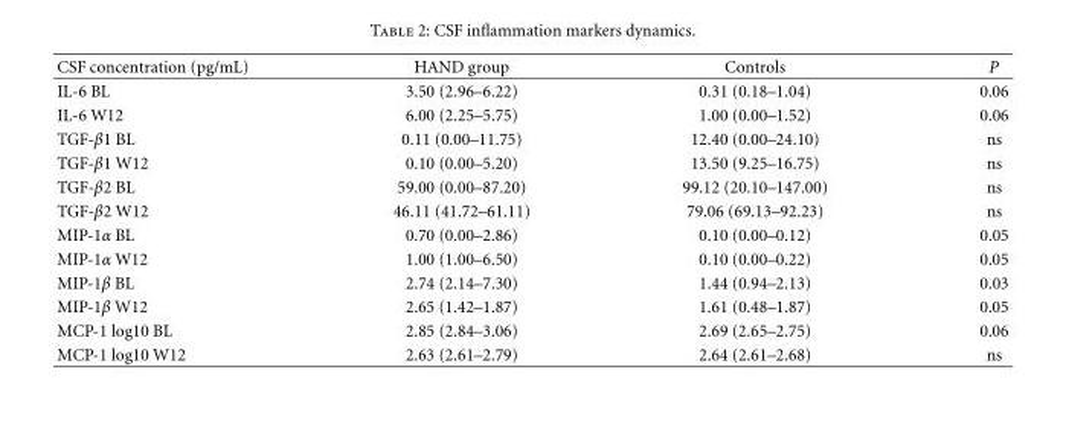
<table><thead><tr><td>CSF concentration (pg/mL)</td><td>HAND group</td><td>Controls</td><td>P</td></tr></thead><tbody><tr><td>IL-6 BL</td><td>3.50 (2.96–6.22)</td><td>0.31 (0.18–1.04)</td><td>0.06</td></tr><tr><td>IL-6 W12</td><td>6.00 (2.25–5.75)</td><td>1.00 (0.00–1.52)</td><td>0.06</td></tr><tr><td>TGF-β1 BL</td><td>0.11 (0.00–11.75)</td><td>12.40 (0.00–24.10)</td><td>ns</td></tr><tr><td>TGF-β1 W12</td><td>0.10 (0.00–5.20)</td><td>13.50 (9.25–16.75)</td><td>ns</td></tr><tr><td>TGF-β2 BL</td><td>59.00 (0.00–87.20)</td><td>99.12 (20.10–147.00)</td><td>ns</td></tr><tr><td>TGF-β2 W12</td><td>46.11 (41.72–61.11)</td><td>79.06 (69.13–92.23)</td><td>ns</td></tr><tr><td>MIP-1α BL</td><td>0.70 (0.00–2.86)</td><td>0.10 (0.00–0.12)</td><td>0.05</td></tr><tr><td>MIP-1α W12</td><td>1.00 (1.00–6.50)</td><td>0.10 (0.00–0.22)</td><td>0.05</td></tr><tr><td>MIP-1β BL</td><td>2.74 (2.14–7.30)</td><td>1.44 (0.94–2.13)</td><td>0.03</td></tr><tr><td>MIP-1β W12</td><td>2.65 (1.42–1.87)</td><td>1.61 (0.48–1.87)</td><td>0.05</td></tr><tr><td>MCP-1 log10 BL</td><td>2.85 (2.84–3.06)</td><td>2.69 (2.65–2.75)</td><td>0.06</td></tr><tr><td>MCP-1 log10 W12</td><td>2.63 (2.61–2.79)</td><td>2.64 (2.61–2.68)</td><td>ns</td></tr></tbody></table>